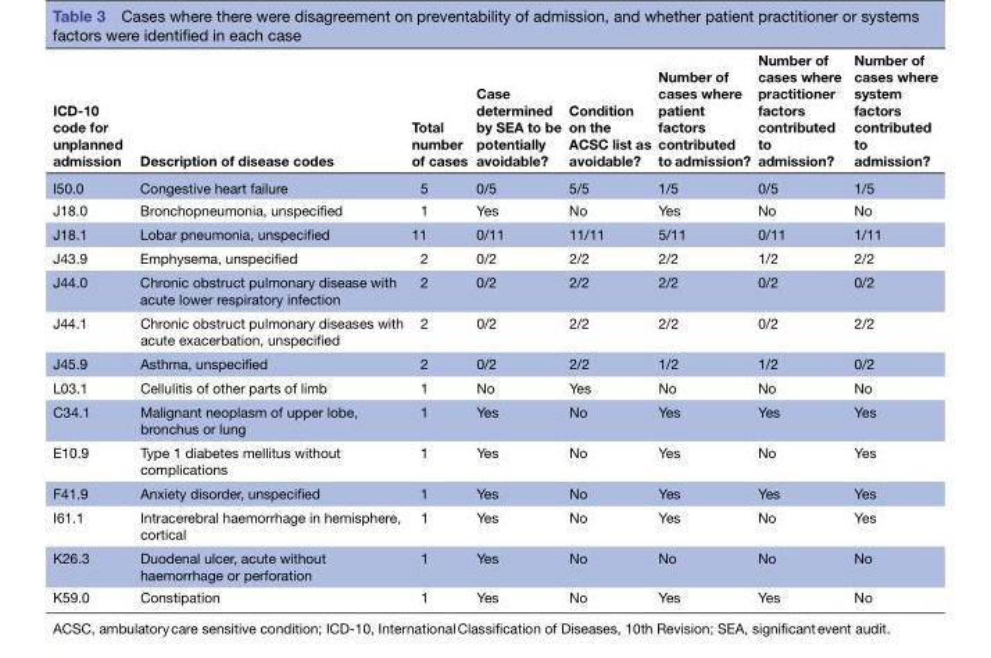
<table><thead><tr><td>ICD-10 code for unplanned admission</td><td>Description of disease codes</td><td>Total number of cases</td><td>Case determined by SEA to be potentially avoidable?</td><td>Condition on the ACSC list as avoidable?</td><td>Number of cases where patient factors contributed to admission?</td><td>Number of cases where practitioner factors contributed to admission?</td><td>Number of cases where system factors contributed to admission?</td></tr></thead><tbody><tr><td>I50.0</td><td>Congestive heart failure</td><td>5</td><td>0/5</td><td>5/5</td><td>1/5</td><td>0/5</td><td>1/5</td></tr><tr><td>J18.0</td><td>Bronchopneumonia, unspecified</td><td>1</td><td>Yes</td><td>No</td><td>Yes</td><td>No</td><td>No</td></tr><tr><td>J18.1</td><td>Lobar pneumonia, unspecified</td><td>11</td><td>0/11</td><td>11/11</td><td>5/11</td><td>0/11</td><td>1/11</td></tr><tr><td>J43.9</td><td>Emphysema, unspecified</td><td>2</td><td>0/2</td><td>2/2</td><td>2/2</td><td>1/2</td><td>2/2</td></tr><tr><td>J44.0</td><td>Chronic obstruct pulmonary disease with acute lower respiratory infection</td><td>2</td><td>0/2</td><td>2/2</td><td>2/2</td><td>0/2</td><td>0/2</td></tr><tr><td>J44.1</td><td>Chronic obstruct pulmonary diseases with acute exacerbation, unspecified</td><td>2</td><td>0/2</td><td>2/2</td><td>2/2</td><td>0/2</td><td>2/2</td></tr><tr><td>J45.9</td><td>Asthma, unspecified</td><td>2</td><td>0/2</td><td>2/2</td><td>1/2</td><td>1/2</td><td>0/2</td></tr><tr><td>L03.1</td><td>Cellulitis of other parts of limb</td><td>1</td><td>No</td><td>Yes</td><td>No</td><td>No</td><td>No</td></tr><tr><td>C34.1</td><td>Malignant neoplasm of upper lobe, bronchus or lung</td><td>1</td><td>Yes</td><td>No</td><td>Yes</td><td>Yes</td><td>Yes</td></tr><tr><td>E10.9</td><td>Type 1 diabetes mellitus without complications</td><td>1</td><td>Yes</td><td>No</td><td>Yes</td><td>No</td><td>Yes</td></tr><tr><td>F41.9</td><td>Anxiety disorder, unspecified</td><td>1</td><td>Yes</td><td>No</td><td>Yes</td><td>Yes</td><td>Yes</td></tr><tr><td>I61.1</td><td>Intracerebral haemorrhage in hemisphere, cortical</td><td>1</td><td>Yes</td><td>No</td><td>Yes</td><td>No</td><td>Yes</td></tr><tr><td>K26.3</td><td>Duodenal ulcer, acute without haemorrhage or perforation</td><td>1</td><td>Yes</td><td>No</td><td>No</td><td>No</td><td>No</td></tr><tr><td>K59.0</td><td>Constipation</td><td>1</td><td>Yes</td><td>No</td><td>Yes</td><td>Yes</td><td>No</td></tr></tbody></table>